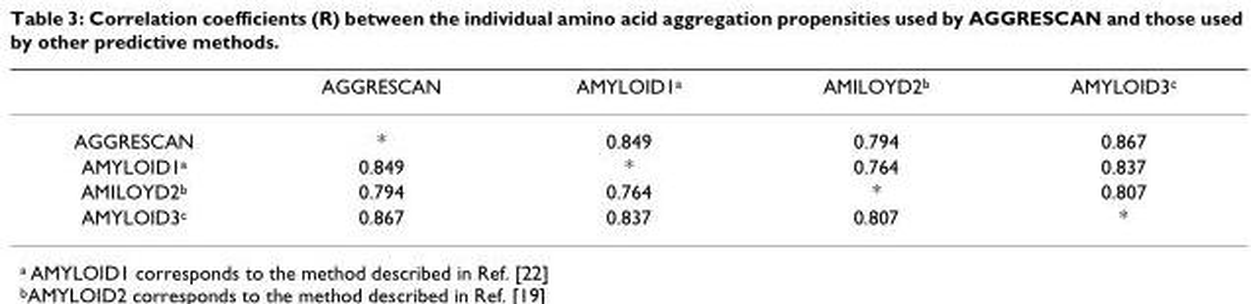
<table><thead><tr><td></td><td>AGGRESCAN</td><td>AMYLOID1<sup>a</sup></td><td>AMILOYD2<sup>b</sup></td><td>AMYLOID3<sup>c</sup></td></tr></thead><tbody><tr><td>AGGRESCAN</td><td>*</td><td>0.849</td><td>0.794</td><td>0.867</td></tr><tr><td>AMYLOID1<sup>a</sup></td><td>0.849</td><td>*</td><td>0.764</td><td>0.837</td></tr><tr><td>AMILOYD2<sup>b</sup></td><td>0.794</td><td>0.764</td><td>*</td><td>0.807</td></tr><tr><td>AMYLOID3<sup>c</sup></td><td>0.867</td><td>0.837</td><td>0.807</td><td>*</td></tr></tbody></table>